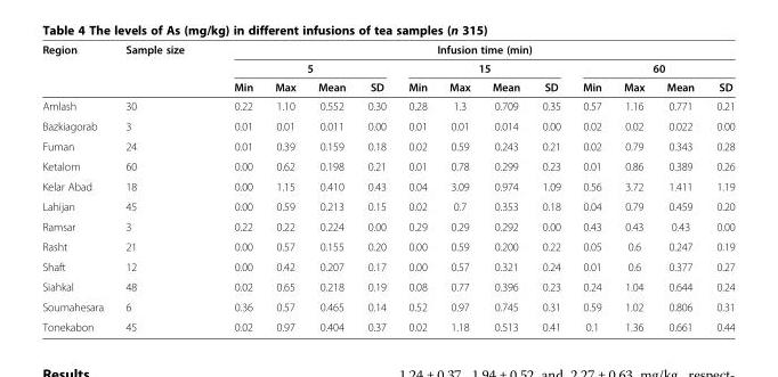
<table><thead><tr><td rowspan="3">Region</td><td rowspan="3">Sample size</td><td colspan="12">Infusion time (min)</td></tr><tr><td colspan="4">5</td><td colspan="4">15</td><td colspan="4">60</td></tr><tr><td>Min</td><td>Max</td><td>Mean</td><td>SD</td><td>Min</td><td>Max</td><td>Mean</td><td>SD</td><td>Min</td><td>Max</td><td>Mean</td><td>SD</td></tr></thead><tbody><tr><td>Amlash</td><td>30</td><td>0.22</td><td>1.10</td><td>0.552</td><td>0.30</td><td>0.28</td><td>1.3</td><td>0.709</td><td>0.35</td><td>0.57</td><td>1.16</td><td>0.771</td><td>0.21</td></tr><tr><td>Bazkiagorab</td><td>3</td><td>0.01</td><td>0.01</td><td>0.011</td><td>0.00</td><td>0.01</td><td>0.01</td><td>0.014</td><td>0.00</td><td>0.02</td><td>0.02</td><td>0.022</td><td>0.00</td></tr><tr><td>Fuman</td><td>24</td><td>0.01</td><td>0.39</td><td>0.159</td><td>0.18</td><td>0.02</td><td>0.59</td><td>0.243</td><td>0.21</td><td>0.02</td><td>0.79</td><td>0.343</td><td>0.28</td></tr><tr><td>Ketalom</td><td>60</td><td>0.00</td><td>0.62</td><td>0.198</td><td>0.21</td><td>0.01</td><td>0.78</td><td>0.299</td><td>0.23</td><td>0.01</td><td>0.86</td><td>0.389</td><td>0.26</td></tr><tr><td>Kelar Abad</td><td>18</td><td>0.00</td><td>1.15</td><td>0.410</td><td>0.43</td><td>0.04</td><td>3.09</td><td>0.974</td><td>1.09</td><td>0.56</td><td>3.72</td><td>1.411</td><td>1.19</td></tr><tr><td>Lahijan</td><td>45</td><td>0.00</td><td>0.59</td><td>0.213</td><td>0.15</td><td>0.02</td><td>0.7</td><td>0.353</td><td>0.18</td><td>0.04</td><td>0.79</td><td>0.459</td><td>0.20</td></tr><tr><td>Ramsar</td><td>3</td><td>0.22</td><td>0.22</td><td>0.224</td><td>0.00</td><td>0.29</td><td>0.29</td><td>0.292</td><td>0.00</td><td>0.43</td><td>0.43</td><td>0.43</td><td>0.00</td></tr><tr><td>Rasht</td><td>21</td><td>0.00</td><td>0.57</td><td>0.155</td><td>0.20</td><td>0.00</td><td>0.59</td><td>0.200</td><td>0.22</td><td>0.05</td><td>0.6</td><td>0.247</td><td>0.19</td></tr><tr><td>Shaft</td><td>12</td><td>0.00</td><td>0.42</td><td>0.207</td><td>0.17</td><td>0.00</td><td>0.57</td><td>0.321</td><td>0.24</td><td>0.01</td><td>0.6</td><td>0.377</td><td>0.27</td></tr><tr><td>Siahkal</td><td>48</td><td>0.02</td><td>0.65</td><td>0.218</td><td>0.19</td><td>0.08</td><td>0.77</td><td>0.396</td><td>0.23</td><td>0.24</td><td>1.04</td><td>0.644</td><td>0.24</td></tr><tr><td>Soumahesara</td><td>6</td><td>0.36</td><td>0.57</td><td>0.465</td><td>0.14</td><td>0.52</td><td>0.97</td><td>0.745</td><td>0.31</td><td>0.59</td><td>1.02</td><td>0.806</td><td>0.31</td></tr><tr><td>Tonekabon</td><td>45</td><td>0.02</td><td>0.97</td><td>0.404</td><td>0.37</td><td>0.02</td><td>1.18</td><td>0.513</td><td>0.41</td><td>0.1</td><td>1.36</td><td>0.661</td><td>0.44</td></tr></tbody></table>